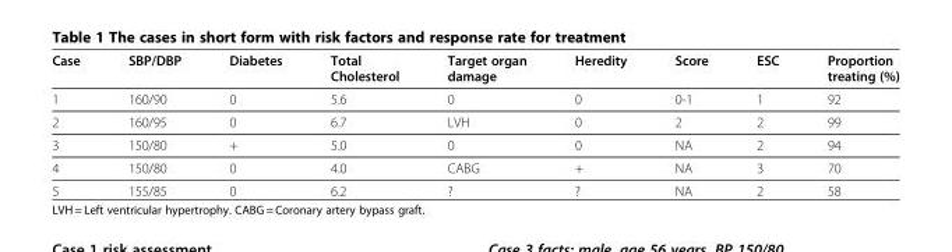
<table><thead><tr><td>Case</td><td>SBP/DBP</td><td>Diabetes</td><td>Total Cholesterol</td><td>Target organ damage</td><td>Heredity</td><td>Score</td><td>ESC</td><td>Proportion treating (%)</td></tr></thead><tbody><tr><td>1</td><td>160/90</td><td>0</td><td>5.6</td><td>0</td><td>0</td><td>0-1</td><td>1</td><td>92</td></tr><tr><td>2</td><td>160/95</td><td>0</td><td>6.7</td><td>LVH</td><td>0</td><td>2</td><td>2</td><td>99</td></tr><tr><td>3</td><td>150/80</td><td>+</td><td>5.0</td><td>0</td><td>0</td><td>NA</td><td>2</td><td>94</td></tr><tr><td>4</td><td>150/80</td><td>0</td><td>4.0</td><td>CABG</td><td>+</td><td>NA</td><td>3</td><td>70</td></tr><tr><td>5</td><td>155/85</td><td>0</td><td>6.2</td><td>?</td><td>?</td><td>NA</td><td>2</td><td>58</td></tr></tbody></table>